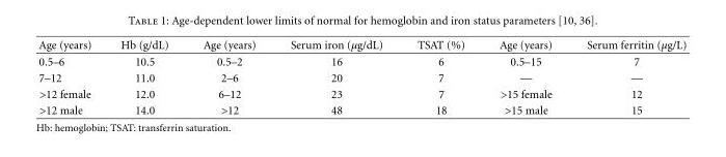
<table><thead><tr><td>Age (years)</td><td>Hb (g/dL)</td><td>Age (years)</td><td>Serum iron (µg/dL)</td><td>TSAT (%)</td><td>Age (years)</td><td>Serum ferritin (µg/L)</td></tr></thead><tbody><tr><td>0.5–6</td><td>10.5</td><td>0.5–2</td><td>16</td><td>6</td><td>0.5–15</td><td>7</td></tr><tr><td>7–12</td><td>11.0</td><td>2–6</td><td>20</td><td>7</td><td>—</td><td>—</td></tr><tr><td>&gt;12 female</td><td>12.0</td><td>6–12</td><td>23</td><td>7</td><td>&gt;15 female</td><td>12</td></tr><tr><td>&gt;12 male</td><td>14.0</td><td>&gt;12</td><td>48</td><td>18</td><td>&gt;15 male</td><td>15</td></tr></tbody></table>